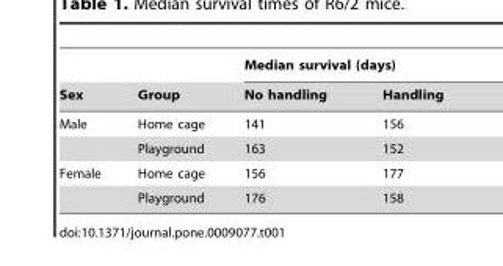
<table><thead><tr><td rowspan="2">Sex</td><td rowspan="2">Group</td><td colspan="2">Median survival (days)</td></tr><tr><td>No handling</td><td>Handling</td></tr></thead><tbody><tr><td rowspan="2">Male</td><td>Home cage</td><td>141</td><td>156</td></tr><tr><td>Playground</td><td>163</td><td>152</td></tr><tr><td rowspan="2">Female</td><td>Home cage</td><td>156</td><td>177</td></tr><tr><td>Playground</td><td>176</td><td>158</td></tr></tbody></table>